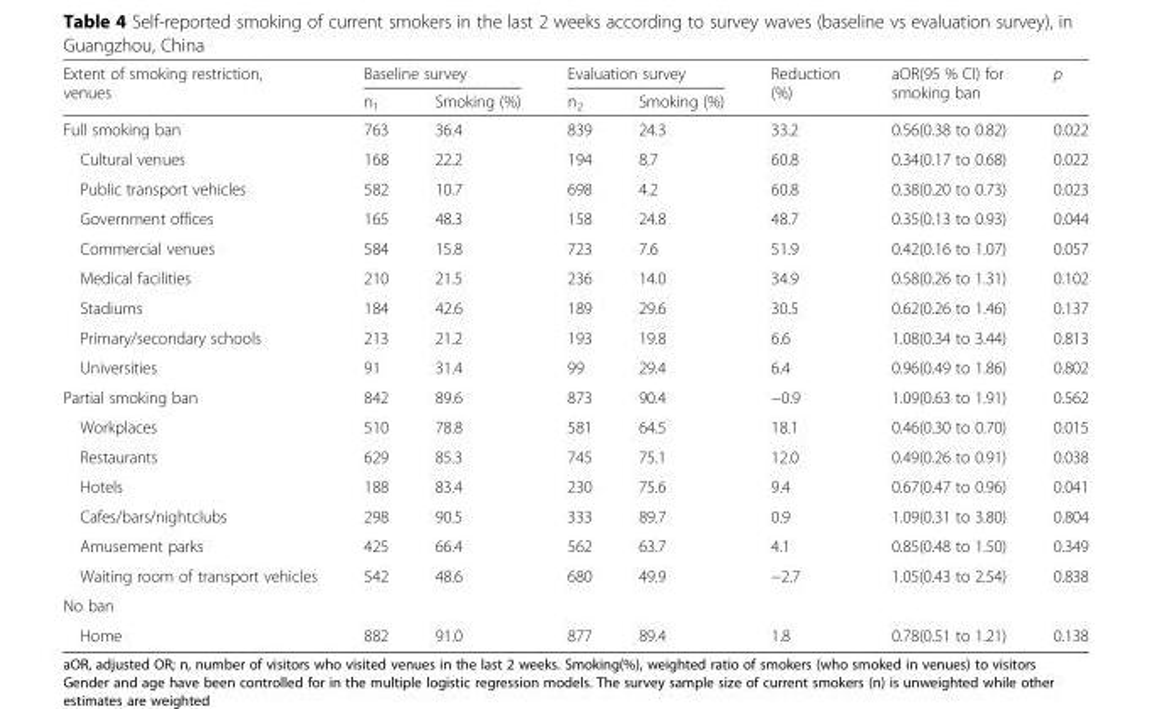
<table><thead><tr><td rowspan="2">Extent of smoking restriction, venues</td><td colspan="2">Baseline survey</td><td colspan="2">Evaluation survey</td><td rowspan="2">Reduction (%)</td><td rowspan="2">aOR(95 % CI) for smoking ban</td><td rowspan="2">p</td></tr><tr><td>n<sub>1</sub></td><td>Smoking (%)</td><td>n<sub>2</sub></td><td>Smoking (%)</td></tr></thead><tbody><tr><td>Full smoking ban</td><td>763</td><td>36.4</td><td>839</td><td>24.3</td><td>33.2</td><td>0.56(0.38 to 0.82)</td><td>0.022</td></tr><tr><td>Cultural venues</td><td>168</td><td>22.2</td><td>194</td><td>8.7</td><td>60.8</td><td>0.34(0.17 to 0.68)</td><td>0.022</td></tr><tr><td>Public transport vehicles</td><td>582</td><td>10.7</td><td>698</td><td>4.2</td><td>60.8</td><td>0.38(0.20 to 0.73)</td><td>0.023</td></tr><tr><td>Government offices</td><td>165</td><td>48.3</td><td>158</td><td>24.8</td><td>48.7</td><td>0.35(0.13 to 0.93)</td><td>0.044</td></tr><tr><td>Commercial venues</td><td>584</td><td>15.8</td><td>723</td><td>7.6</td><td>51.9</td><td>0.42(0.16 to 1.07)</td><td>0.057</td></tr><tr><td>Medical facilities</td><td>210</td><td>21.5</td><td>236</td><td>14.0</td><td>34.9</td><td>0.58(0.26 to 1.31)</td><td>0.102</td></tr><tr><td>Stadiums</td><td>184</td><td>42.6</td><td>189</td><td>29.6</td><td>30.5</td><td>0.62(0.26 to 1.46)</td><td>0.137</td></tr><tr><td>Primary/secondary schools</td><td>213</td><td>21.2</td><td>193</td><td>19.8</td><td>6.6</td><td>1.08(0.34 to 3.44)</td><td>0.813</td></tr><tr><td>Universities</td><td>91</td><td>31.4</td><td>99</td><td>29.4</td><td>6.4</td><td>0.96(0.49 to 1.86)</td><td>0.802</td></tr><tr><td>Partial smoking ban</td><td>842</td><td>89.6</td><td>873</td><td>90.4</td><td>−0.9</td><td>1.09(0.63 to 1.91)</td><td>0.562</td></tr><tr><td>Workplaces</td><td>510</td><td>78.8</td><td>581</td><td>64.5</td><td>18.1</td><td>0.46(0.30 to 0.70)</td><td>0.015</td></tr><tr><td>Restaurants</td><td>629</td><td>85.3</td><td>745</td><td>75.1</td><td>12.0</td><td>0.49(0.26 to 0.91)</td><td>0.038</td></tr><tr><td>Hotels</td><td>188</td><td>83.4</td><td>230</td><td>75.6</td><td>9.4</td><td>0.67(0.47 to 0.96)</td><td>0.041</td></tr><tr><td>Cafes/bars/nightclubs</td><td>298</td><td>90.5</td><td>333</td><td>89.7</td><td>0.9</td><td>1.09(0.31 to 3.80)</td><td>0.804</td></tr><tr><td>Amusement parks</td><td>425</td><td>66.4</td><td>562</td><td>63.7</td><td>4.1</td><td>0.85(0.48 to 1.50)</td><td>0.349</td></tr><tr><td>Waiting room of transport vehicles</td><td>542</td><td>48.6</td><td>680</td><td>49.9</td><td>−2.7</td><td>1.05(0.43 to 2.54)</td><td>0.838</td></tr><tr><td colspan="8">No ban</td></tr><tr><td>Home</td><td>882</td><td>91.0</td><td>877</td><td>89.4</td><td>1.8</td><td>0.78(0.51 to 1.21)</td><td>0.138</td></tr></tbody></table>